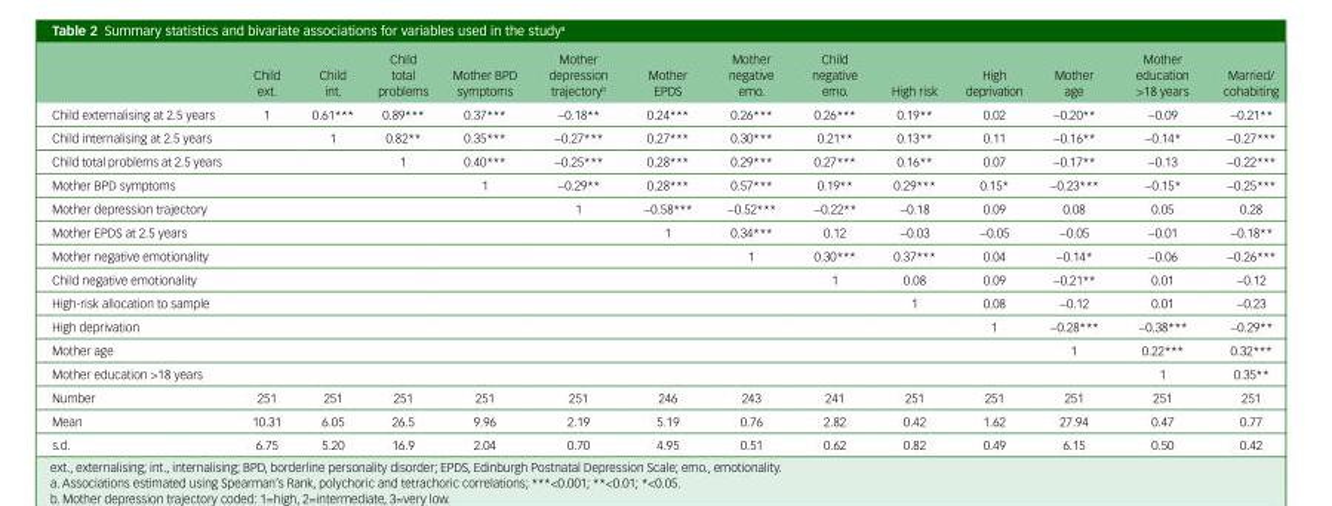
<table><thead><tr><td></td><td>Child ext.</td><td>Child int.</td><td>Child total problems</td><td>Mother BPD symptoms</td><td>Mother depression trajectory<sup>b</sup></td><td>Mother EPDS</td><td>Mother negative emo.</td><td>Child negative emo.</td><td>High risk</td><td>High deprivation</td><td>Mother age</td><td>Mother education &gt;18 years</td><td>Married/ cohabiting</td></tr></thead><tbody><tr><td>Child externalising at 2.5 years</td><td>1</td><td>0.61***</td><td>0.89***</td><td>0.37***</td><td>−0.18**</td><td>0.24***</td><td>0.26***</td><td>0.26***</td><td>0.19**</td><td>0.02</td><td>−0.20**</td><td>−0.09</td><td>−0.21**</td></tr><tr><td>Child internalising at 2.5 years</td><td></td><td>1</td><td>0.82**</td><td>0.35***</td><td>−0.27***</td><td>0.27***</td><td>0.30***</td><td>0.21**</td><td>0.13**</td><td>0.11</td><td>−0.16**</td><td>−0.14*</td><td>−0.27***</td></tr><tr><td>Child total problems at 2.5 years</td><td></td><td></td><td>1</td><td>0.40***</td><td>−0.25***</td><td>0.28***</td><td>0.29***</td><td>0.27***</td><td>0.16**</td><td>0.07</td><td>−0.17**</td><td>−0.13</td><td>−0.22***</td></tr><tr><td>Mother BPD symptoms</td><td></td><td></td><td></td><td>1</td><td>−0.29**</td><td>0.28***</td><td>0.57***</td><td>0.19**</td><td>0.29***</td><td>0.15*</td><td>−0.23***</td><td>−0.15*</td><td>−0.25***</td></tr><tr><td>Mother depression trajectory</td><td></td><td></td><td></td><td></td><td>1</td><td>−0.58***</td><td>−0.52***</td><td>−0.22**</td><td>−0.18</td><td>0.09</td><td>0.08</td><td>0.05</td><td>0.28</td></tr><tr><td>Mother EPDS at 2.5 years</td><td></td><td></td><td></td><td></td><td></td><td>1</td><td>0.34***</td><td>0.12</td><td>−0.03</td><td>−0.05</td><td>−0.05</td><td>−0.01</td><td>−0.18**</td></tr><tr><td>Mother negative emotionality</td><td></td><td></td><td></td><td></td><td></td><td></td><td>1</td><td>0.30***</td><td>0.37***</td><td>0.04</td><td>−0.14*</td><td>−0.06</td><td>−0.26***</td></tr><tr><td>Child negative emotionality</td><td></td><td></td><td></td><td></td><td></td><td></td><td></td><td>1</td><td>0.08</td><td>0.09</td><td>−0.21**</td><td>0.01</td><td>−0.12</td></tr><tr><td>High-risk allocation to sample</td><td></td><td></td><td></td><td></td><td></td><td></td><td></td><td></td><td>1</td><td>0.08</td><td>−0.12</td><td>0.01</td><td>−0.23</td></tr><tr><td>High deprivation</td><td></td><td></td><td></td><td></td><td></td><td></td><td></td><td></td><td></td><td>1</td><td>−0.28***</td><td>−0.38***</td><td>−0.29**</td></tr><tr><td>Mother age</td><td></td><td></td><td></td><td></td><td></td><td></td><td></td><td></td><td></td><td></td><td>1</td><td>0.22***</td><td>0.32***</td></tr><tr><td>Mother education &gt;18 years</td><td></td><td></td><td></td><td></td><td></td><td></td><td></td><td></td><td></td><td></td><td></td><td>1</td><td>0.35**</td></tr><tr><td>Number</td><td>251</td><td>251</td><td>251</td><td>251</td><td>251</td><td>246</td><td>243</td><td>241</td><td>251</td><td>251</td><td>251</td><td>251</td><td>251</td></tr><tr><td>Mean</td><td>10.31</td><td>6.05</td><td>26.5</td><td>9.96</td><td>2.19</td><td>5.19</td><td>0.76</td><td>2.82</td><td>0.42</td><td>1.62</td><td>27.94</td><td>0.47</td><td>0.77</td></tr><tr><td>s.d.</td><td>6.75</td><td>5.20</td><td>16.9</td><td>2.04</td><td>0.70</td><td>4.95</td><td>0.51</td><td>0.62</td><td>0.82</td><td>0.49</td><td>6.15</td><td>0.50</td><td>0.42</td></tr></tbody></table>